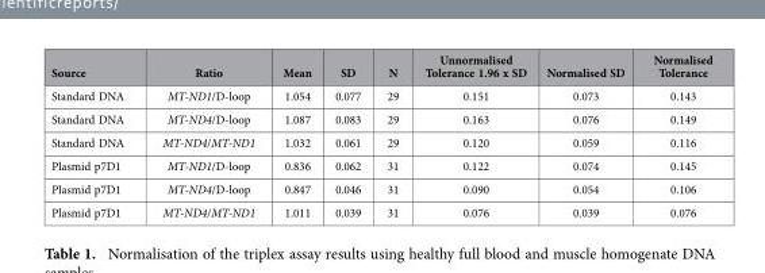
<table><thead><tr><td>Source</td><td>Ratio</td><td>Mean</td><td>SD</td><td>N</td><td>Unnormalised Tolerance 1.96 x SD</td><td>Normalised SD</td><td>Normalised Tolerance</td></tr></thead><tbody><tr><td>Standard DNA</td><td>MT-ND1/D-loop</td><td>1.054</td><td>0.077</td><td>29</td><td>0.151</td><td>0.073</td><td>0.143</td></tr><tr><td>Standard DNA</td><td>MT-ND4/D-loop</td><td>1.087</td><td>0.083</td><td>29</td><td>0.163</td><td>0.076</td><td>0.149</td></tr><tr><td>Standard DNA</td><td>MT-ND4/MT-ND1</td><td>1.032</td><td>0.061</td><td>29</td><td>0.120</td><td>0.059</td><td>0.116</td></tr><tr><td>Plasmid p7D1</td><td>MT-ND1/D-loop</td><td>0.836</td><td>0.062</td><td>31</td><td>0.122</td><td>0.074</td><td>0.145</td></tr><tr><td>Plasmid p7D1</td><td>MT-ND4/D-loop</td><td>0.847</td><td>0.046</td><td>31</td><td>0.090</td><td>0.054</td><td>0.106</td></tr><tr><td>Plasmid p7D1</td><td>MT-ND4/MT-ND1</td><td>1.011</td><td>0.039</td><td>31</td><td>0.076</td><td>0.039</td><td>0.076</td></tr></tbody></table>